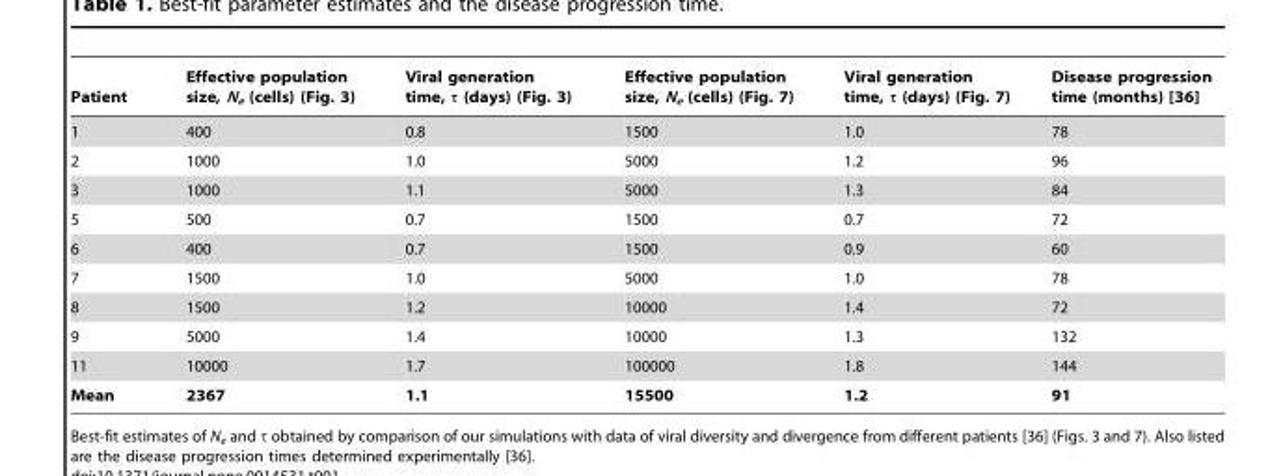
<table><thead><tr><td>Patient</td><td>Effective population size, N<sub>e</sub> (cells) (Fig. 3)</td><td>Viral generation time, τ (days) (Fig. 3)</td><td>Effective population size, N<sub>e</sub> (cells) (Fig. 7)</td><td>Viral generation time, τ (days) (Fig. 7)</td><td>Disease progression time (months) [36]</td></tr></thead><tbody><tr><td>1</td><td>400</td><td>0.8</td><td>1500</td><td>1.0</td><td>78</td></tr><tr><td>2</td><td>1000</td><td>1.0</td><td>5000</td><td>1.2</td><td>96</td></tr><tr><td>3</td><td>1000</td><td>1.1</td><td>5000</td><td>1.3</td><td>84</td></tr><tr><td>5</td><td>500</td><td>0.7</td><td>1500</td><td>0.7</td><td>72</td></tr><tr><td>6</td><td>400</td><td>0.7</td><td>1500</td><td>0.9</td><td>60</td></tr><tr><td>7</td><td>1500</td><td>1.0</td><td>5000</td><td>1.0</td><td>78</td></tr><tr><td>8</td><td>1500</td><td>1.2</td><td>10000</td><td>1.4</td><td>72</td></tr><tr><td>9</td><td>5000</td><td>1.4</td><td>10000</td><td>1.3</td><td>132</td></tr><tr><td>11</td><td>10000</td><td>1.7</td><td>100000</td><td>1.8</td><td>144</td></tr><tr><td>Mean</td><td>2367</td><td>1.1</td><td>15500</td><td>1.2</td><td>91</td></tr></tbody></table>